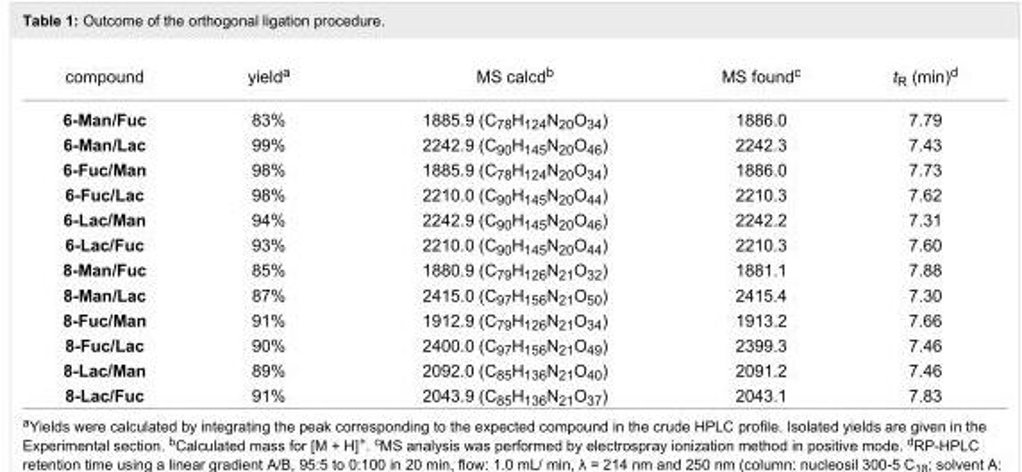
<table><tbody><tr><td>compound</td><td>yield<sup>a</sup></td><td>MS calcd<sup>b</sup></td><td>MS found<sup>c</sup></td><td>t<sub>R</sub> (min)<sup>d</sup></td></tr><tr><td>6-Man/Fuc</td><td>83%</td><td>1885.9 (C<sub>78</sub>H<sub>124</sub>N<sub>20</sub>O<sub>34</sub>)</td><td>1886.0</td><td>7.79</td></tr><tr><td>6-Man/Lac</td><td>99%</td><td>2242.9 (C<sub>90</sub>H<sub>145</sub>N<sub>20</sub>O<sub>46</sub>)</td><td>2242.3</td><td>7.43</td></tr><tr><td>6-Fuc/Man</td><td>98%</td><td>1885.9 (C<sub>78</sub>H<sub>124</sub>N<sub>20</sub>O<sub>34</sub>)</td><td>1886.0</td><td>7.73</td></tr><tr><td>6-Fuc/Lac</td><td>98%</td><td>2210.0 (C<sub>90</sub>H<sub>145</sub>N<sub>20</sub>O<sub>44</sub>)</td><td>2210.3</td><td>7.62</td></tr><tr><td>6-Lac/Man</td><td>94%</td><td>2242.9 (C<sub>90</sub>H<sub>145</sub>N<sub>20</sub>O<sub>46</sub>)</td><td>2242.2</td><td>7.31</td></tr><tr><td>6-Lac/Fuc</td><td>93%</td><td>2210.0 (C<sub>90</sub>H<sub>145</sub>N<sub>20</sub>O<sub>44</sub>)</td><td>2210.3</td><td>7.60</td></tr><tr><td>8-Man/Fuc</td><td>85%</td><td>1880.9 (C<sub>79</sub>H<sub>126</sub>N<sub>21</sub>O<sub>32</sub>)</td><td>1881.1</td><td>7.88</td></tr><tr><td>8-Man/Lac</td><td>87%</td><td>2415.0 (C<sub>97</sub>H<sub>156</sub>N<sub>21</sub>O<sub>50</sub>)</td><td>2415.4</td><td>7.30</td></tr><tr><td>8-Fuc/Man</td><td>91%</td><td>1912.9 (C<sub>79</sub>H<sub>126</sub>N<sub>21</sub>O<sub>34</sub>)</td><td>1913.2</td><td>7.66</td></tr><tr><td>8-Fuc/Lac</td><td>90%</td><td>2400.0 (C<sub>97</sub>H<sub>156</sub>N<sub>21</sub>O<sub>49</sub>)</td><td>2399.3</td><td>7.46</td></tr><tr><td>8-Lac/Man</td><td>89%</td><td>2092.0 (C<sub>85</sub>H<sub>136</sub>N<sub>21</sub>O<sub>40</sub>)</td><td>2091.2</td><td>7.46</td></tr><tr><td>8-Lac/Fuc</td><td>91%</td><td>2043.9 (C<sub>85</sub>H<sub>136</sub>N<sub>21</sub>O<sub>37</sub>)</td><td>2043.1</td><td>7.83</td></tr></tbody></table>